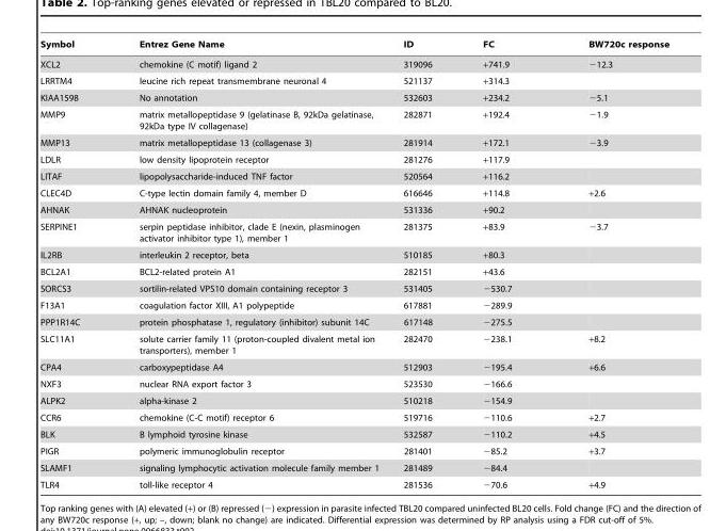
<table><thead><tr><td>Symbol</td><td>Entrez Gene Name</td><td>ID</td><td>FC</td><td>BW720c response</td></tr></thead><tbody><tr><td>XCL2</td><td>chemokine (C motif) ligand 2</td><td>319096</td><td>+741.9</td><td>−12.3</td></tr><tr><td>LRRTM4</td><td>leucine rich repeat transmembrane neuronal 4</td><td>521137</td><td>+314.3</td><td></td></tr><tr><td>KIAA1598</td><td>No annotation</td><td>532603</td><td>+234.2</td><td>−5.1</td></tr><tr><td>MMP9</td><td>matrix metallopeptidase 9 (gelatinase B, 92kDa gelatinase, 92kDa type IV collagenase)</td><td>282871</td><td>+192.4</td><td>−1.9</td></tr><tr><td>MMP13</td><td>matrix metallopeptidase 13 (collagenase 3)</td><td>281914</td><td>+172.1</td><td>−3.9</td></tr><tr><td>LDLR</td><td>low density lipoprotein receptor</td><td>281276</td><td>+117.9</td><td></td></tr><tr><td>LITAF</td><td>lipopolysaccharide-induced TNF factor</td><td>520564</td><td>+116.2</td><td></td></tr><tr><td>CLEC4D</td><td>C-type lectin domain family 4, member D</td><td>616646</td><td>+114.8</td><td>+2.6</td></tr><tr><td>AHNAK</td><td>AHNAK nucleoprotein</td><td>531336</td><td>+90.2</td><td></td></tr><tr><td>SERPINE1</td><td>serpin peptidase inhibitor, clade E (nexin, plasminogen activator inhibitor type 1), member 1</td><td>281375</td><td>+83.9</td><td>−3.7</td></tr><tr><td>IL2RB</td><td>interleukin 2 receptor, beta</td><td>510185</td><td>+80.3</td><td></td></tr><tr><td>BCL2A1</td><td>BCL2-related protein A1</td><td>282151</td><td>+43.6</td><td></td></tr><tr><td>SORCS3</td><td>sortilin-related VPS10 domain containing receptor 3</td><td>531405</td><td>−530.7</td><td></td></tr><tr><td>F13A1</td><td>coagulation factor XIII, A1 polypeptide</td><td>617881</td><td>−289.9</td><td></td></tr><tr><td>PPP1R14C</td><td>protein phosphatase 1, regulatory (inhibitor) subunit 14C</td><td>617148</td><td>−275.5</td><td></td></tr><tr><td>SLC11A1</td><td>solute carrier family 11 (proton-coupled divalent metal ion transporters), member 1</td><td>282470</td><td>−238.1</td><td>+8.2</td></tr><tr><td>CPA4</td><td>carboxypeptidase A4</td><td>512903</td><td>−195.4</td><td>+6.6</td></tr><tr><td>NXF3</td><td>nuclear RNA export factor 3</td><td>523530</td><td>−166.6</td><td></td></tr><tr><td>ALPK2</td><td>alpha-kinase 2</td><td>510218</td><td>−154.9</td><td></td></tr><tr><td>CCR6</td><td>chemokine (C-C motif) receptor 6</td><td>519716</td><td>−110.6</td><td>+2.7</td></tr><tr><td>BLK</td><td>B lymphoid tyrosine kinase</td><td>532587</td><td>−110.2</td><td>+4.5</td></tr><tr><td>PIGR</td><td>polymeric immunoglobulin receptor</td><td>281401</td><td>−85.2</td><td>+3.7</td></tr><tr><td>SLAMF1</td><td>signaling lymphocytic activation molecule family member 1</td><td>281489</td><td>−84.4</td><td></td></tr><tr><td>TLR4</td><td>toll-like receptor 4</td><td>281536</td><td>−70.6</td><td>+4.9</td></tr></tbody></table>